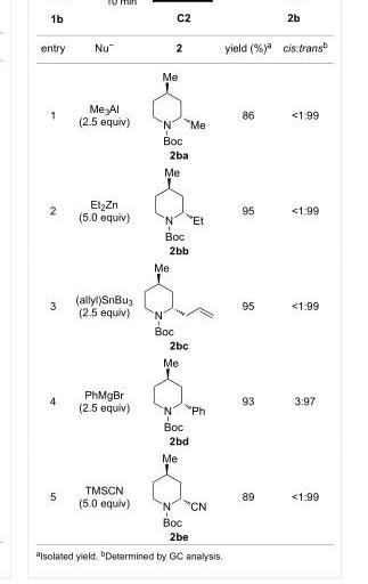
<table><tbody><tr><td>entry</td><td>Nu<sup>−</sup></td><td>2</td><td>yield (%)<sup>a</sup></td><td>cis:trans<sup>b</sup></td></tr><tr><td>1</td><td>Me<sub>3</sub>Al (2.5 equiv)</td><td>2ba</td><td>86</td><td>&lt;1:99</td></tr><tr><td>2</td><td>Et<sub>2</sub>Zn (5.0 equiv)</td><td>2bb</td><td>95</td><td>&lt;1:99</td></tr><tr><td>3</td><td>(allyl)SnBu<sub>3</sub> (2.5 equiv)</td><td>2bc</td><td>95</td><td>&lt;1:99</td></tr><tr><td>4</td><td>PhMgBr (2.5 equiv)</td><td>2bd</td><td>93</td><td>3:97</td></tr><tr><td>5</td><td>TMSCN (5.0 equiv)</td><td>2be</td><td>89</td><td>&lt;1:99</td></tr></tbody></table>